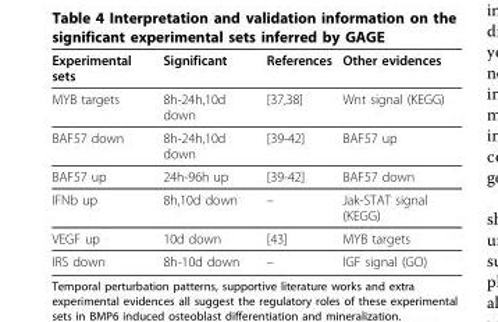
<table><thead><tr><td>Experimental sets</td><td>Significant</td><td>References</td><td>Other evidences</td></tr></thead><tbody><tr><td>MYB targets</td><td>8h-24h,10d down</td><td>[37,38]</td><td>Wnt signal (KEGG)</td></tr><tr><td>BAF57 down</td><td>8h-24h,10d down</td><td>[39-42]</td><td>BAF57 up</td></tr><tr><td>BAF57 up</td><td>24h-96h up</td><td>[39-42]</td><td>BAF57 down</td></tr><tr><td>IFNb up</td><td>8h,10d down</td><td>–</td><td>Jak-STAT signal (KEGG)</td></tr><tr><td>VEGF up</td><td>10d down</td><td>[43]</td><td>MYB targets</td></tr><tr><td>IRS down</td><td>8h-10d down</td><td>–</td><td>IGF signal (GO)</td></tr></tbody></table>